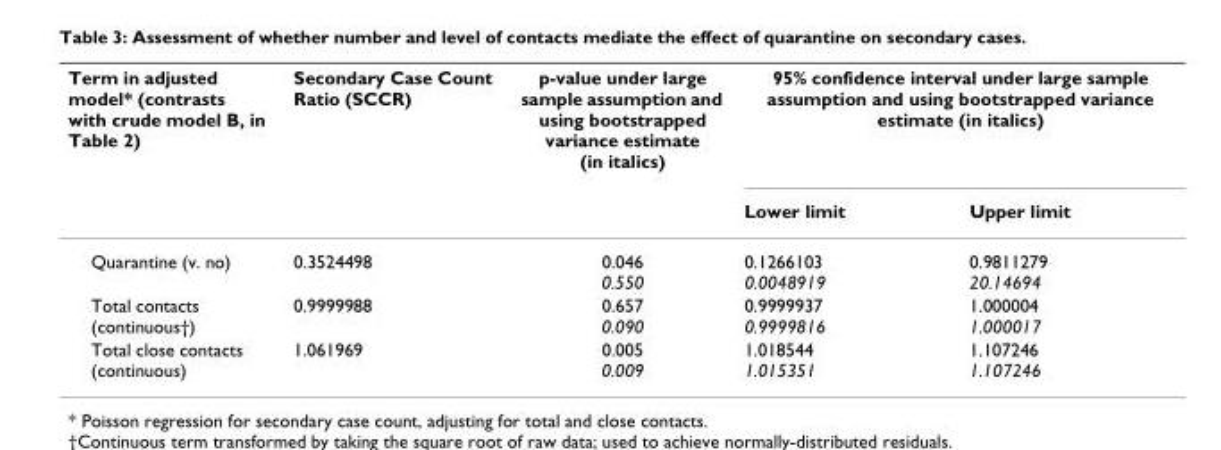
<table><thead><tr><td rowspan="2">Term in adjusted model* (contrasts with crude model B, in Table 2)</td><td rowspan="2">Secondary Case Count Ratio (SCCR)</td><td rowspan="2">p-value under large sample assumption and using bootstrapped variance estimate (in italics)</td><td colspan="2">95% confidence interval under large sample assumption and using bootstrapped variance estimate (in italics)</td></tr><tr><td>Lower limit</td><td>Upper limit</td></tr></thead><tbody><tr><td>Quarantine (v. no)</td><td>0.3524498</td><td>0.046 0.550</td><td>0.1266103 0.0048919</td><td>0.9811279 20.14694</td></tr><tr><td>Total contacts (continuous†)</td><td>0.9999988</td><td>0.657 0.090</td><td>0.9999937 0.9999816</td><td>1.000004 1.000017</td></tr><tr><td>Total close contacts (continuous)</td><td>1.061969</td><td>0.005 0.009</td><td>1.018544 1.015351</td><td>1.107246 1.107246</td></tr></tbody></table>